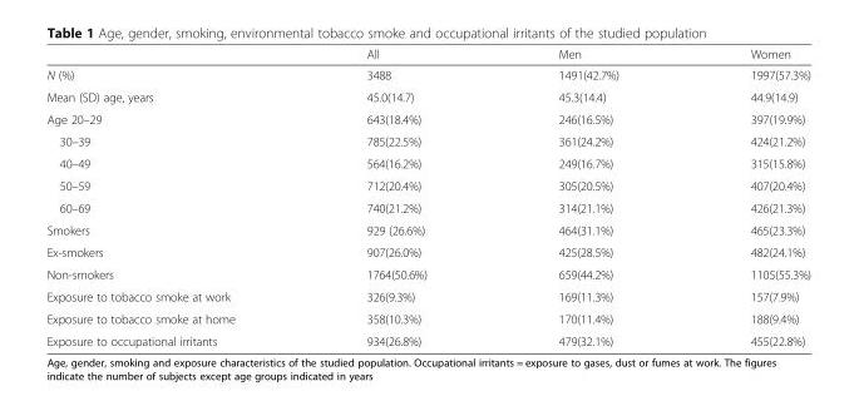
<table><thead><tr><td></td><td>All</td><td>Men</td><td>Women</td></tr></thead><tbody><tr><td>N (%)</td><td>3488</td><td>1491(42.7%)</td><td>1997(57.3%)</td></tr><tr><td>Mean (SD) age, years</td><td>45.0(14.7)</td><td>45.3(14.4)</td><td>44.9(14.9)</td></tr><tr><td>Age 20–29</td><td>643(18.4%)</td><td>246(16.5%)</td><td>397(19.9%)</td></tr><tr><td>30–39</td><td>785(22.5%)</td><td>361(24.2%)</td><td>424(21.2%)</td></tr><tr><td>40–49</td><td>564(16.2%)</td><td>249(16.7%)</td><td>315(15.8%)</td></tr><tr><td>50–59</td><td>712(20.4%)</td><td>305(20.5%)</td><td>407(20.4%)</td></tr><tr><td>60–69</td><td>740(21.2%)</td><td>314(21.1%)</td><td>426(21.3%)</td></tr><tr><td>Smokers</td><td>929 (26.6%)</td><td>464(31.1%)</td><td>465(23.3%)</td></tr><tr><td>Ex-smokers</td><td>907(26.0%)</td><td>425(28.5%)</td><td>482(24.1%)</td></tr><tr><td>Non-smokers</td><td>1764(50.6%)</td><td>659(44.2%)</td><td>1105(55.3%)</td></tr><tr><td>Exposure to tobacco smoke at work</td><td>326(9.3%)</td><td>169(11.3%)</td><td>157(7.9%)</td></tr><tr><td>Exposure to tobacco smoke at home</td><td>358(10.3%)</td><td>170(11.4%)</td><td>188(9.4%)</td></tr><tr><td>Exposure to occupational irritants</td><td>934(26.8%)</td><td>479(32.1%)</td><td>455(22.8%)</td></tr></tbody></table>